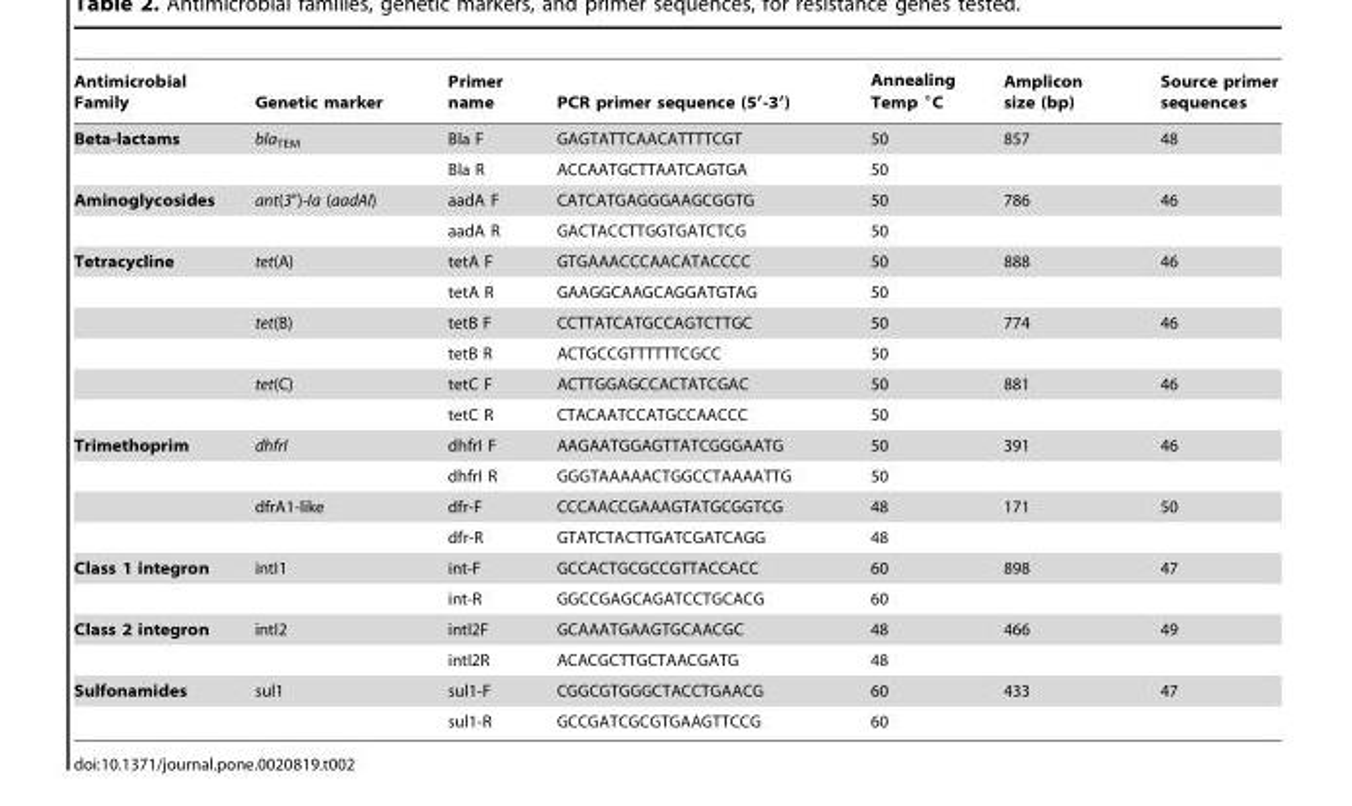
<table><thead><tr><td>Antimicrobial Family</td><td>Genetic marker</td><td>Primer name</td><td>PCR primer sequence (5′-3′)</td><td>Annealing Temp °C</td><td>Amplicon size (bp)</td><td>Source primer sequences</td></tr></thead><tbody><tr><td rowspan="2">Beta-lactams</td><td>bla<sub>TEM</sub></td><td>Bla F</td><td>GAGTATTCAACATTTTCGT</td><td>50</td><td>857</td><td>48</td></tr><tr><td></td><td>Bla R</td><td>ACCAATGCTTAATCAGTGA</td><td>50</td><td></td><td></td></tr><tr><td rowspan="2">Aminoglycosides</td><td>ant(3″)-Ia (aadAI)</td><td>aadA F</td><td>CATCATGAGGGAAGCGGTG</td><td>50</td><td>786</td><td>46</td></tr><tr><td></td><td>aadA R</td><td>GACTACCTTGGTGATCTCG</td><td>50</td><td></td><td></td></tr><tr><td rowspan="6">Tetracycline</td><td>tet(A)</td><td>tetA F</td><td>GTGAAACCCAACATACCCC</td><td>50</td><td>888</td><td>46</td></tr><tr><td></td><td>tetA R</td><td>GAAGGCAAGCAGGATGTAG</td><td>50</td><td></td><td></td></tr><tr><td>tet(B)</td><td>tetB F</td><td>CCTTATCATGCCAGTCTTGC</td><td>50</td><td>774</td><td>46</td></tr><tr><td></td><td>tetB R</td><td>ACTGCCGTTTTTTCGCC</td><td>50</td><td></td><td></td></tr><tr><td>tet(C)</td><td>tetC F</td><td>ACTTGGAGCCACTATCGAC</td><td>50</td><td>881</td><td>46</td></tr><tr><td></td><td>tetC R</td><td>CTACAATCCATGCCAACCC</td><td>50</td><td></td><td></td></tr><tr><td rowspan="4">Trimethoprim</td><td>dhfrI</td><td>dhfrI F</td><td>AAGAATGGAGTTATCGGGAATG</td><td>50</td><td>391</td><td>46</td></tr><tr><td></td><td>dhfrI R</td><td>GGGTAAAAACTGGCCTAAAATTG</td><td>50</td><td></td><td></td></tr><tr><td>dfrA1-like</td><td>dfr-F</td><td>CCCAACCGAAAGTATGCGGTCG</td><td>48</td><td>171</td><td>50</td></tr><tr><td></td><td>dfr-R</td><td>GTATCTACTTGATCGATCAGG</td><td>48</td><td></td><td></td></tr><tr><td rowspan="2">Class 1 integron</td><td>intI1</td><td>int-F</td><td>GCCACTGCGCCGTTACCACC</td><td>60</td><td>898</td><td>47</td></tr><tr><td></td><td>int-R</td><td>GGCCGAGCAGATCCTGCACG</td><td>60</td><td></td><td></td></tr><tr><td rowspan="2">Class 2 integron</td><td>intI2</td><td>intI2F</td><td>GCAAATGAAGTGCAACGC</td><td>48</td><td>466</td><td>49</td></tr><tr><td></td><td>intI2R</td><td>ACACGCTTGCTAACGATG</td><td>48</td><td></td><td></td></tr><tr><td rowspan="2">Sulfonamides</td><td>sul1</td><td>sul1-F</td><td>CGGCGTGGGCTACCTGAACG</td><td>60</td><td>433</td><td>47</td></tr><tr><td></td><td>sul1-R</td><td>GCCGATCGCGTGAAGTTCCG</td><td>60</td><td></td><td></td></tr></tbody></table>